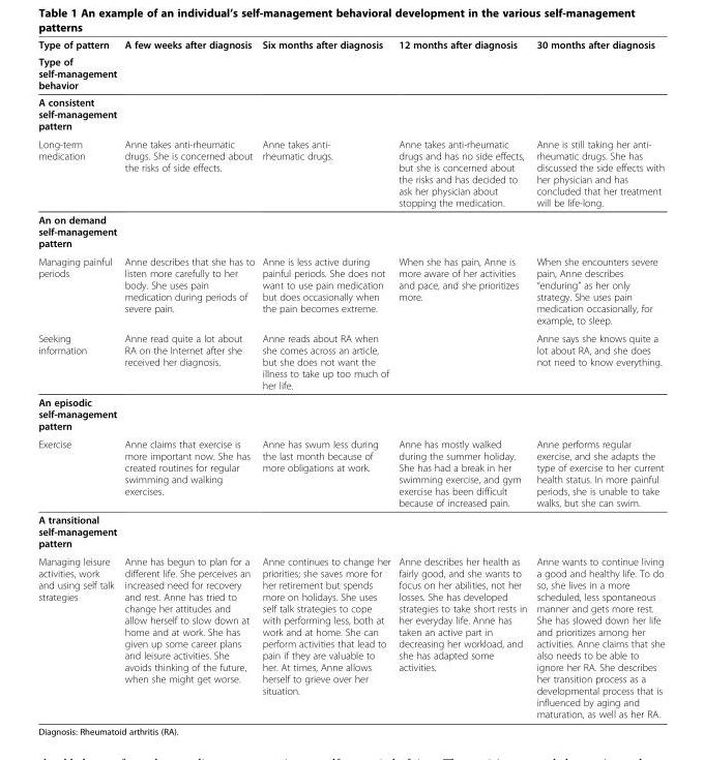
<table><thead><tr><td rowspan="2">Type of pattern Type of self-management behavior</td><td rowspan="2">A few weeks after diagnosis</td><td rowspan="2">Six months after diagnosis</td><td rowspan="2">12 months after diagnosis</td><td rowspan="2">30 months after diagnosis</td></tr><tr></tr></thead><tbody><tr><td colspan="5">A consistent self-management pattern</td></tr><tr><td>Long-term medication</td><td>Anne takes anti-rheumatic drugs. She is concerned about the risks of side effects.</td><td>Anne takes anti- rheumatic drugs.</td><td>Anne takes anti-rheumatic drugs and has no side effects, but she is concerned about the risks and has decided to ask her physician about stopping the medication.</td><td>Anne is still taking her anti- rheumatic drugs. She has discussed the side effects with her physician and has concluded that her treatment will be life-long.</td></tr><tr><td colspan="5">An on demand self-management pattern</td></tr><tr><td>Managing painful periods</td><td>Anne describes that she has to listen more carefully to her body. She uses pain medication during periods of severe pain.</td><td>Anne is less active during painful periods. She does not want to use pain medication but does occasionally when the pain becomes extreme.</td><td>When she has pain, Anne is more aware of her activities and pace, and she prioritizes more.</td><td>When she encounters severe pain, Anne describes “enduring” as her only strategy. She uses pain medication occasionally, for example, to sleep.</td></tr><tr><td>Seeking information</td><td>Anne read quite a lot about RA on the Internet after she received her diagnosis.</td><td>Anne reads about RA when she comes across an article, but she does not want the illness to take up too much of her life.</td><td></td><td>Anne says she knows quite a lot about RA, and she does not need to know everything.</td></tr><tr><td colspan="5">An episodic self-management pattern</td></tr><tr><td>Exercise</td><td>Anne claims that exercise is more important now. She has created routines for regular swimming and walking exercises.</td><td>Anne has swum less during the last month because of more obligations at work.</td><td>Anne has mostly walked during the summer holiday. She has had a break in her swimming exercise, and gym exercise has been difficult because of increased pain.</td><td>Anne performs regular exercise, and she adapts the type of exercise to her current health status. In more painful periods, she is unable to take walks, but she can swim.</td></tr><tr><td colspan="5">A transitional self-management pattern</td></tr><tr><td>Managing leisure activities, work and using self talk strategies</td><td>Anne has begun to plan for a different life. She perceives an increased need for recovery and rest. Anne has tried to change her attitudes and allow herself to slow down at home and at work. She has given up some career plans and leisure activities. She avoids thinking of the future, when she might get worse.</td><td>Anne continues to change her priorities; she saves more for her retirement but spends more on holidays. She uses self talk strategies to cope with performing less, both at work and at home. She can perform activities that lead to pain if they are valuable to her. At times, Anne allows herself to grieve over her situation.</td><td>Anne describes her health as fairly good, and she wants to focus on her abilities, not her losses. She has developed strategies to take short rests in her everyday life. Anne has taken an active part in decreasing her workload, and she has adapted some activities.</td><td>Anne wants to continue living a good and healthy life. To do so, she lives in a more scheduled, less spontaneous manner and gets more rest. She has slowed down her life and prioritizes among her activities. Anne claims that she also needs to be able to ignore her RA. She describes her transition process as a developmental process that is influenced by aging and maturation, as well as her RA.</td></tr></tbody></table>